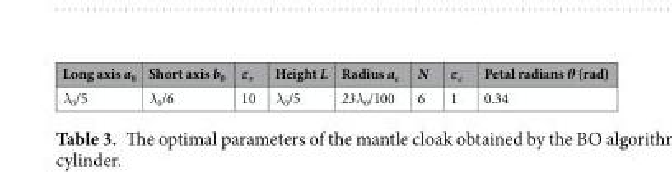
<table><thead><tr><td>Long axis a<sub>0</sub></td><td>Short axis b<sub>0</sub></td><td>ε<sub>r</sub></td><td>Height L</td><td>Radius a<sub>c</sub></td><td>N</td><td>ε<sub>c</sub></td><td>Petal radians θ (rad)</td></tr></thead><tbody><tr><td>λ<sub>0</sub>/5</td><td>λ<sub>0</sub>/6</td><td>10</td><td>λ<sub>0</sub>/5</td><td>23λ<sub>0</sub>/100</td><td>6</td><td>1</td><td>0.34</td></tr></tbody></table>